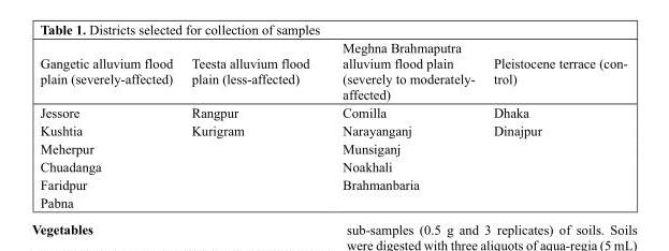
<table><thead><tr><td>Gangetic alluvium flood plain (severely-affected)</td><td>Teesta alluvium flood plain (less-affected)</td><td>Meghna Brahmaputra alluvium flood plain (severely to moderately- affected)</td><td>Pleistocene terrace (con- trol)</td></tr></thead><tbody><tr><td>Jessore</td><td>Rangpur</td><td>Comilla</td><td>Dhaka</td></tr><tr><td>Kushtia</td><td>Kurigram</td><td>Narayanganj</td><td>Dinajpur</td></tr><tr><td>Meherpur</td><td></td><td>Munsiganj</td><td></td></tr><tr><td>Chuadanga</td><td></td><td>Noakhali</td><td></td></tr><tr><td>Faridpur</td><td></td><td>Brahmanbaria</td><td></td></tr><tr><td>Pabna</td><td></td><td></td><td></td></tr></tbody></table>